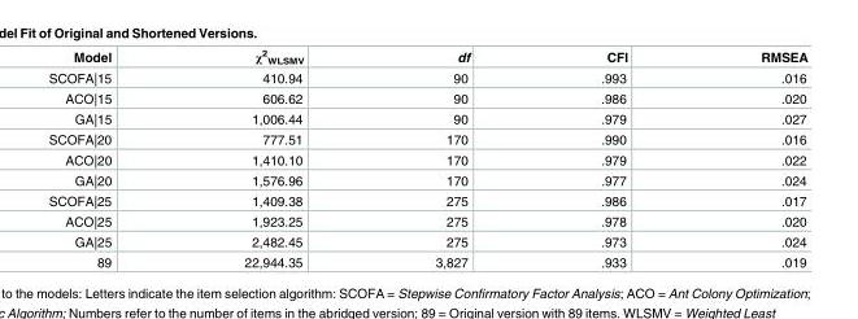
<table><thead><tr><td>Model</td><td>χ<sup>2</sup> <sub>WLSMV</sub></td><td>df</td><td>CFI</td><td>RMSEA</td></tr></thead><tbody><tr><td>SCOFA|15</td><td>410.94</td><td>90</td><td>.993</td><td>.016</td></tr><tr><td>ACO|15</td><td>606.62</td><td>90</td><td>.986</td><td>.020</td></tr><tr><td>GA|15</td><td>1,006.44</td><td>90</td><td>.979</td><td>.027</td></tr><tr><td>SCOFA|20</td><td>777.51</td><td>170</td><td>.990</td><td>.016</td></tr><tr><td>ACO|20</td><td>1,410.10</td><td>170</td><td>.979</td><td>.022</td></tr><tr><td>GA|20</td><td>1,576.96</td><td>170</td><td>.977</td><td>.024</td></tr><tr><td>SCOFA|25</td><td>1,409.38</td><td>275</td><td>.986</td><td>.017</td></tr><tr><td>ACO|25</td><td>1,923.25</td><td>275</td><td>.978</td><td>.020</td></tr><tr><td>GA|25</td><td>2,482.45</td><td>275</td><td>.973</td><td>.024</td></tr><tr><td>89</td><td>22,944.35</td><td>3,827</td><td>.933</td><td>.019</td></tr></tbody></table>